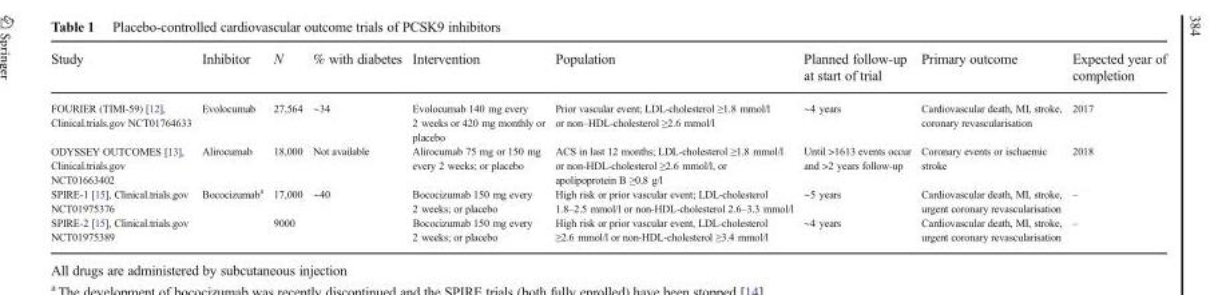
<table><thead><tr><td>Study</td><td>Inhibitor</td><td>N</td><td>% with diabetes</td><td>Intervention</td><td>Population</td><td>Planned follow-up at start of trial</td><td>Primary outcome</td><td>Expected year of completion</td></tr></thead><tbody><tr><td>FOURIER (TIMI-59) [12], Clinical.trials.gov NCT01764633</td><td>Evolocumab</td><td>27,564</td><td>∼34</td><td>Evolocumab 140 mg every 2 weeks or 420 mg monthly or placebo</td><td>Prior vascular event; LDL-cholesterol ≥1.8 mmol/l or non–HDL-cholesterol ≥2.6 mmol/l</td><td>∼4 years</td><td>Cardiovascular death, MI, stroke, coronary revascularisation</td><td>2017</td></tr><tr><td>ODYSSEY OUTCOMES [13], Clinical.trials.gov NCT01663402</td><td>Alirocumab</td><td>18,000</td><td>Not available</td><td>Alirocumab 75 mg or 150 mg every 2 weeks; or placebo</td><td>ACS in last 12 months; LDL-cholesterol ≥1.8 mmol/l or non-HDL-cholesterol ≥2.6 mmol/l, or apolipoprotein B ≥0.8 g/l</td><td>Until &gt;1613 events occur and &gt;2 years follow-up</td><td>Coronary events or ischaemic stroke</td><td>2018</td></tr><tr><td>SPIRE-1 [15], Clinical.trials.gov NCT01975376</td><td>Bococizumab<sup>a</sup></td><td>17,000</td><td rowspan="2">∼40</td><td>Bococizumab 150 mg every 2 weeks; or placebo</td><td>High risk or prior vascular event; LDL-cholesterol 1.8–2.5 mmol/l or non-HDL-cholesterol 2.6–3.3 mmol/l</td><td>∼5 years</td><td>Cardiovascular death, MI, stroke, urgent coronary revascularisation</td><td>–</td></tr><tr><td>SPIRE-2 [15], Clinical.trials.gov NCT01975389</td><td></td><td>9000</td><td>Bococizumab 150 mg every 2 weeks; or placebo</td><td>High risk or prior vascular event, LDL-cholesterol ≥2.6 mmol/l or non-HDL-cholesterol ≥3.4 mmol/l</td><td>∼4 years</td><td>Cardiovascular death, MI, stroke, urgent coronary revascularisation</td><td>–</td></tr></tbody></table>